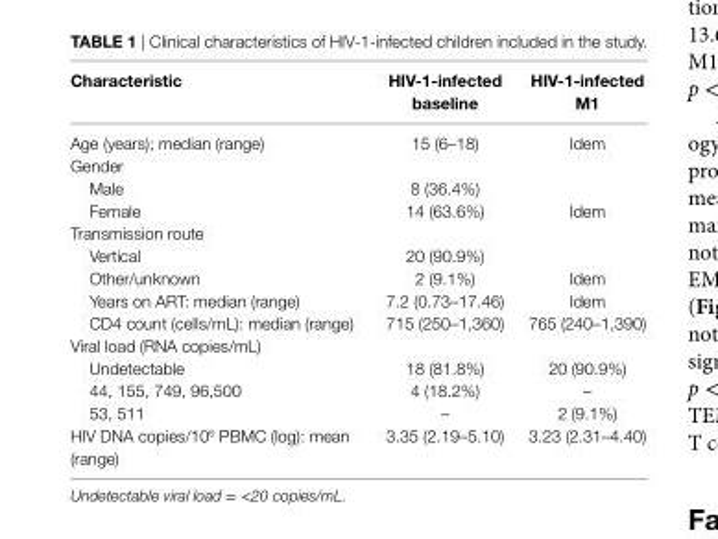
<table><thead><tr><td>characteristic</td><td>hiV-1-infected baseline</td><td>hiV-1-infected M1</td></tr></thead><tbody><tr><td>Age (years); median (range)</td><td>15 (6–18)</td><td>Idem</td></tr><tr><td colspan="3">Gender</td></tr><tr><td>Male</td><td>8 (36.4%)</td><td></td></tr><tr><td>Female</td><td>14 (63.6%)</td><td>Idem</td></tr><tr><td colspan="3">Transmission route</td></tr><tr><td>Vertical</td><td>20 (90.9%)</td><td></td></tr><tr><td>Other/unknown</td><td>2 (9.1%)</td><td>Idem</td></tr><tr><td>Years on ART: median (range)</td><td>7.2 (0.73–17.46)</td><td>Idem</td></tr><tr><td>CD4 count (cells/mL): median (range)</td><td>715 (250–1,360)</td><td>765 (240–1,390)</td></tr><tr><td colspan="3">Viral load (RNA copies/mL)</td></tr><tr><td>Undetectable</td><td>18 (81.8%)</td><td>20 (90.9%)</td></tr><tr><td>44, 155, 749, 96,500</td><td>4 (18.2%)</td><td>–</td></tr><tr><td>53, 511</td><td>–</td><td>2 (9.1%)</td></tr><tr><td>HIV DNA copies/10<sup>6</sup> PBMC (log): mean (range)</td><td>3.35 (2.19–5.10)</td><td>3.23 (2.31–4.40)</td></tr></tbody></table>